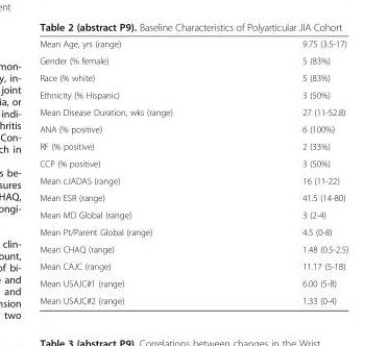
<table><tbody><tr><td>Mean Age, yrs (range)</td><td>9.75 (3.5-17)</td></tr><tr><td>Gender (% female)</td><td>5 (83%)</td></tr><tr><td>Race (% white)</td><td>5 (83%)</td></tr><tr><td>Ethnicity (% Hispanic)</td><td>3 (50%)</td></tr><tr><td>Mean Disease Duration, wks (range)</td><td>27 (11-52.8)</td></tr><tr><td>ANA (% positive)</td><td>6 (100%)</td></tr><tr><td>RF (% positive)</td><td>2 (33%)</td></tr><tr><td>CCP (% positive)</td><td>3 (50%)</td></tr><tr><td>Mean cJADAS (range)</td><td>16 (11-22)</td></tr><tr><td>Mean ESR (range)</td><td>41.5 (14-80)</td></tr><tr><td>Mean MD Global (range)</td><td>3 (2-4)</td></tr><tr><td>Mean Pt/Parent Global (range)</td><td>4.5 (0-8)</td></tr><tr><td>Mean CHAQ (range)</td><td>1.48 (0.5-2.5)</td></tr><tr><td>Mean CAJC (range)</td><td>11.17 (5-18)</td></tr><tr><td>Mean USAJC#1 (range)</td><td>6.00 (5-8)</td></tr><tr><td>Mean USAJC#2 (range)</td><td>1.33 (0-4)</td></tr></tbody></table>